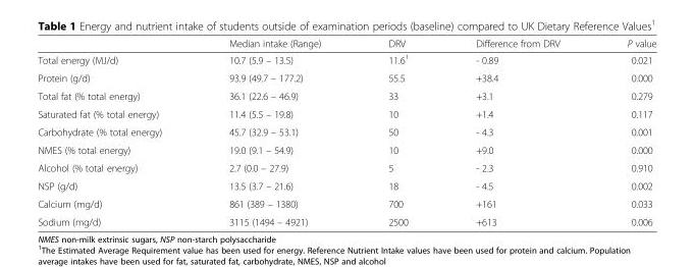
<table><thead><tr><td></td><td>Median intake (Range)</td><td>DRV</td><td>Difference from DRV</td><td>P value</td></tr></thead><tbody><tr><td>Total energy (MJ/d)</td><td>10.7 (5.9 – 13.5)</td><td>11.6<sup>1</sup></td><td>- 0.89</td><td>0.021</td></tr><tr><td>Protein (g/d)</td><td>93.9 (49.7 – 177.2)</td><td>55.5</td><td>+38.4</td><td>0.000</td></tr><tr><td>Total fat (% total energy)</td><td>36.1 (22.6 – 46.9)</td><td>33</td><td>+3.1</td><td>0.279</td></tr><tr><td>Saturated fat (% total energy)</td><td>11.4 (5.5 – 19.8)</td><td>10</td><td>+1.4</td><td>0.117</td></tr><tr><td>Carbohydrate (% total energy)</td><td>45.7 (32.9 – 53.1)</td><td>50</td><td>- 4.3</td><td>0.001</td></tr><tr><td>NMES (% total energy)</td><td>19.0 (9.1 – 54.9)</td><td>10</td><td>+9.0</td><td>0.000</td></tr><tr><td>Alcohol (% total energy)</td><td>2.7 (0.0 – 27.9)</td><td>5</td><td>- 2.3</td><td>0.910</td></tr><tr><td>NSP (g/d)</td><td>13.5 (3.7 – 21.6)</td><td>18</td><td>- 4.5</td><td>0.002</td></tr><tr><td>Calcium (mg/d)</td><td>861 (389 – 1380)</td><td>700</td><td>+161</td><td>0.033</td></tr><tr><td>Sodium (mg/d)</td><td>3115 (1494 – 4921)</td><td>2500</td><td>+613</td><td>0.006</td></tr></tbody></table>